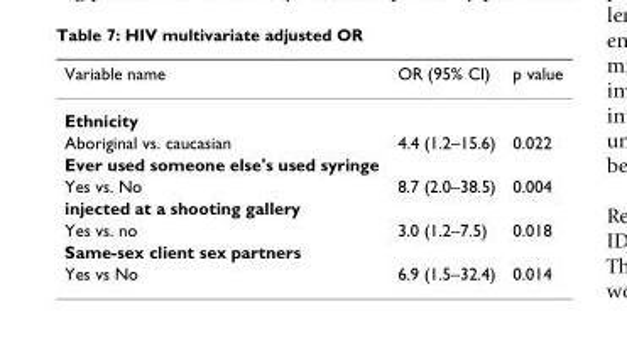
<table><thead><tr><td>Variable name</td><td>OR (95% CI)</td><td>p value</td></tr></thead><tbody><tr><td colspan="3">Ethnicity</td></tr><tr><td>Aboriginal vs. caucasian</td><td>4.4 (1.2–15.6)</td><td>0.022</td></tr><tr><td colspan="3">Ever used someone else&#x27;s used syringe</td></tr><tr><td>Yes vs. No</td><td>8.7 (2.0–38.5)</td><td>0.004</td></tr><tr><td colspan="3">injected at a shooting gallery</td></tr><tr><td>Yes vs. no</td><td>3.0 (1.2–7.5)</td><td>0.018</td></tr><tr><td colspan="3">Same-sex client sex partners</td></tr><tr><td>Yes vs No</td><td>6.9 (1.5–32.4)</td><td>0.014</td></tr></tbody></table>